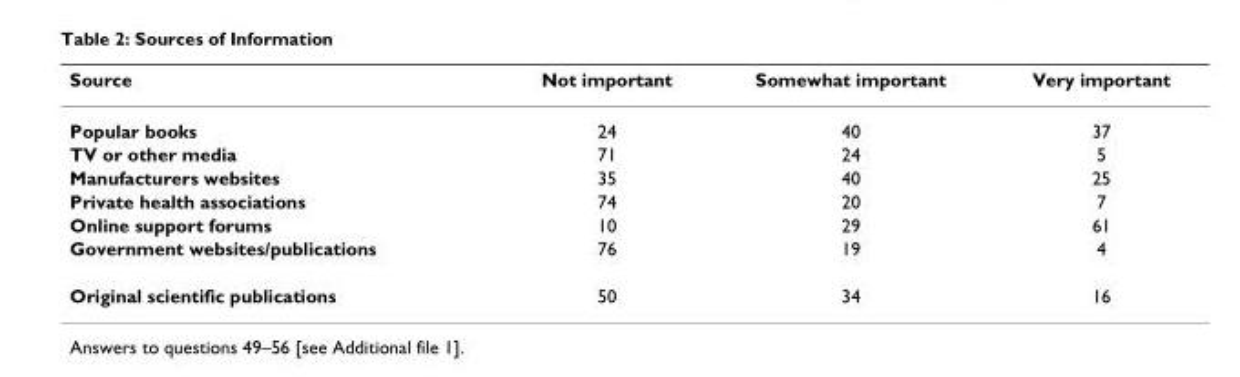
<table><thead><tr><td>Source</td><td>Not important</td><td>Somewhat important</td><td>Very important</td></tr></thead><tbody><tr><td>Popular books</td><td>24</td><td>40</td><td>37</td></tr><tr><td>TV or other media</td><td>71</td><td>24</td><td>5</td></tr><tr><td>Manufacturers websites</td><td>35</td><td>40</td><td>25</td></tr><tr><td>Private health associations</td><td>74</td><td>20</td><td>7</td></tr><tr><td>Online support forums</td><td>10</td><td>29</td><td>61</td></tr><tr><td>Government websites/publications</td><td>76</td><td>19</td><td>4</td></tr><tr><td>Original scientific publications</td><td>50</td><td>34</td><td>16</td></tr></tbody></table>